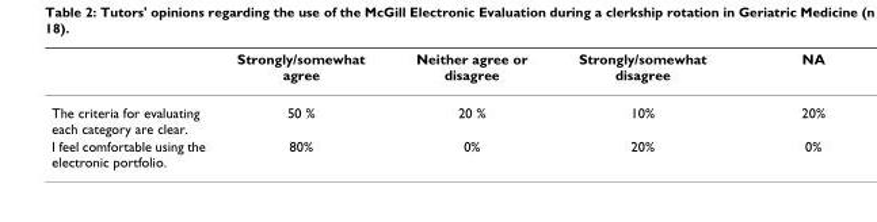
<table><thead><tr><td></td><td>Strongly/somewhat agree</td><td>Neither agree or disagree</td><td>Strongly/somewhat disagree</td><td>NA</td></tr></thead><tbody><tr><td>The criteria for evaluating each category are clear.</td><td>50 %</td><td>20 %</td><td>10%</td><td>20%</td></tr><tr><td>I feel comfortable using the electronic portfolio.</td><td>80%</td><td>0%</td><td>20%</td><td>0%</td></tr></tbody></table>